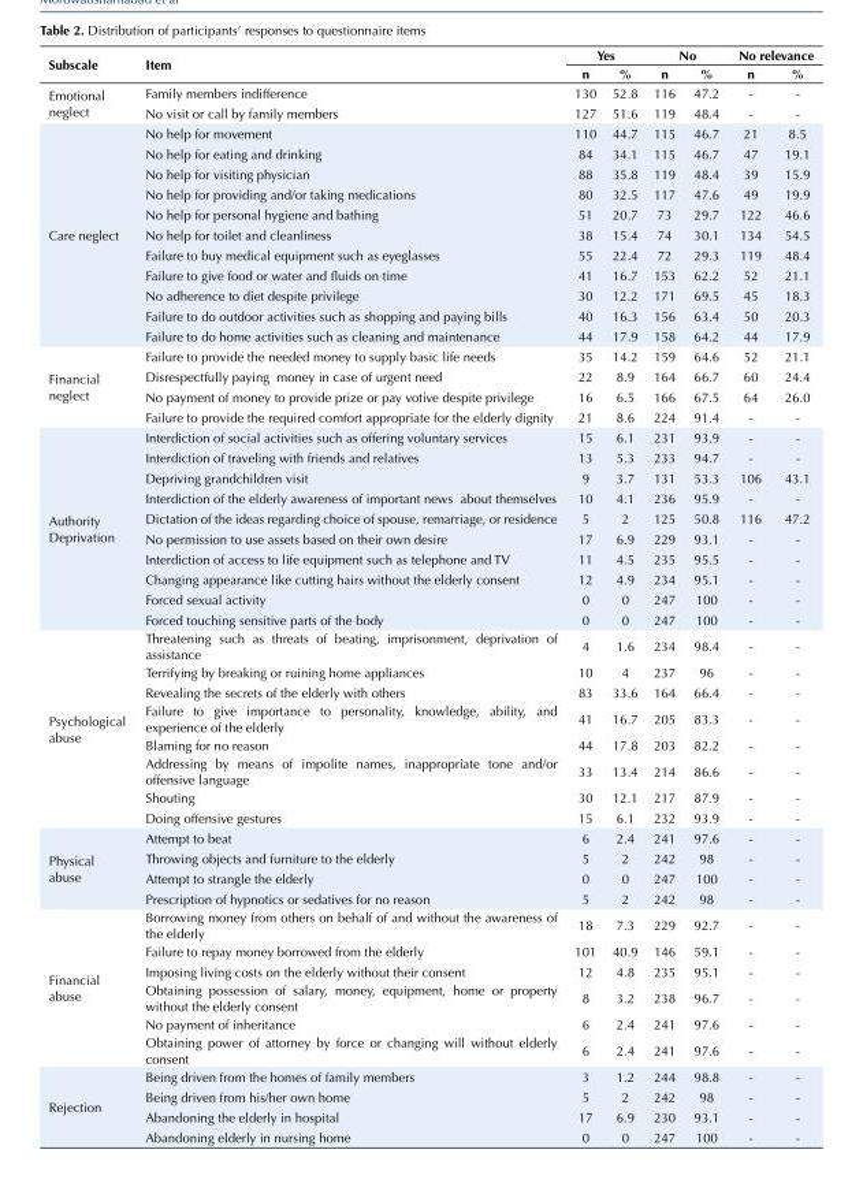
<table><tbody><tr><td rowspan="2">Subscale</td><td rowspan="2">Item</td><td colspan="2">Yes</td><td colspan="2">No</td><td colspan="2">No relevance</td></tr><tr><td>n</td><td>%</td><td>n</td><td>%</td><td>n</td><td>%</td></tr><tr><td rowspan="2">Emotional neglect</td><td>Family members indifference</td><td>130</td><td>52.8</td><td>116</td><td>47.2</td><td>-</td><td>-</td></tr><tr><td>No visit or call by family members</td><td>127</td><td>51.6</td><td>119</td><td>48.4</td><td>-</td><td>-</td></tr><tr><td rowspan="11">Care neglect</td><td>No help for movement</td><td>110</td><td>44.7</td><td>115</td><td>46.7</td><td>21</td><td>8.5</td></tr><tr><td>No help for eating and drinking</td><td>84</td><td>34.1</td><td>115</td><td>46.7</td><td>47</td><td>19.1</td></tr><tr><td>No help for visiting physician</td><td>88</td><td>35.8</td><td>119</td><td>48.4</td><td>39</td><td>15.9</td></tr><tr><td>No help for providing and/or taking medications</td><td>80</td><td>32.5</td><td>117</td><td>47.6</td><td>49</td><td>19.9</td></tr><tr><td>No help for personal hygiene and bathing</td><td>51</td><td>20.7</td><td>73</td><td>29.7</td><td>122</td><td>46.6</td></tr><tr><td>No help for toilet and cleanliness</td><td>38</td><td>15.4</td><td>74</td><td>30.1</td><td>134</td><td>54.5</td></tr><tr><td>Failure to buy medical equipment such as eyeglasses</td><td>55</td><td>22.4</td><td>72</td><td>29.3</td><td>119</td><td>48.4</td></tr><tr><td>Failure to give food or water and fluids on time</td><td>41</td><td>16.7</td><td>153</td><td>62.2</td><td>52</td><td>21.1</td></tr><tr><td>No adherence to diet despite privilege</td><td>30</td><td>12.2</td><td>171</td><td>69.5</td><td>45</td><td>18.3</td></tr><tr><td>Failure to do outdoor activities such as shopping and paying bills</td><td>40</td><td>16.3</td><td>156</td><td>63.4</td><td>50</td><td>20.3</td></tr><tr><td>Failure to do home activities such as cleaning and maintenance</td><td>44</td><td>17.9</td><td>158</td><td>64.2</td><td>44</td><td>17.9</td></tr><tr><td rowspan="4">Financial neglect</td><td>Failure to provide the needed money to supply basic life needs</td><td>35</td><td>14.2</td><td>159</td><td>64.6</td><td>52</td><td>21.1</td></tr><tr><td>Disrespectfully paying money in case of urgent need</td><td>22</td><td>8.9</td><td>164</td><td>66.7</td><td>60</td><td>24.4</td></tr><tr><td>No payment of money to provide prize or pay votive despite privilege</td><td>16</td><td>6.5</td><td>166</td><td>67.5</td><td>64</td><td>26.0</td></tr><tr><td>Failure to provide the required comfort appropriate for the elderly dignity</td><td>21</td><td>8.6</td><td>224</td><td>91.4</td><td>-</td><td>-</td></tr><tr><td rowspan="10">Authority Deprivation</td><td>Interdiction of social activities such as offering voluntary services</td><td>15</td><td>6.1</td><td>231</td><td>93.9</td><td>-</td><td>-</td></tr><tr><td>Interdiction of traveling with friends and relatives</td><td>13</td><td>5.3</td><td>233</td><td>94.7</td><td>-</td><td>-</td></tr><tr><td>Depriving grandchildren visit</td><td>9</td><td>3.7</td><td>131</td><td>53.3</td><td>106</td><td>43.1</td></tr><tr><td>Interdiction of the elderly awareness of important news about themselves</td><td>10</td><td>4.1</td><td>236</td><td>95.9</td><td>-</td><td>-</td></tr><tr><td>Dictation of the ideas regarding choice of spouse, remarriage, or residence</td><td>5</td><td>2</td><td>125</td><td>50.8</td><td>116</td><td>47.2</td></tr><tr><td>No permission to use assets based on their own desire</td><td>17</td><td>6.9</td><td>229</td><td>93.1</td><td>-</td><td>-</td></tr><tr><td>Interdiction of access to life equipment such as telephone and TV</td><td>11</td><td>4.5</td><td>235</td><td>95.5</td><td>-</td><td>-</td></tr><tr><td>Changing appearance like cutting hairs without the elderly consent</td><td>12</td><td>4.9</td><td>234</td><td>95.1</td><td>-</td><td>-</td></tr><tr><td>Forced sexual activity</td><td>0</td><td>0</td><td>247</td><td>100</td><td>-</td><td>-</td></tr><tr><td>Forced touching sensitive parts of the body</td><td>0</td><td>0</td><td>247</td><td>100</td><td>-</td><td>-</td></tr><tr><td rowspan="8">Psychological abuse</td><td>Threatening such as threats of beating, imprisonment, deprivation of assistance</td><td>4</td><td>1.6</td><td>234</td><td>98.4</td><td>-</td><td>-</td></tr><tr><td>Terrifying by breaking or ruining home appliances</td><td>10</td><td>4</td><td>237</td><td>96</td><td>-</td><td>-</td></tr><tr><td>Revealing the secrets of the elderly with others</td><td>83</td><td>33.6</td><td>164</td><td>66.4</td><td>-</td><td>-</td></tr><tr><td>Failure to give importance to personality, knowledge, ability, and experience of the elderly</td><td>41</td><td>16.7</td><td>205</td><td>83.3</td><td>-</td><td>-</td></tr><tr><td>Blaming for no reason</td><td>44</td><td>17.8</td><td>203</td><td>82.2</td><td>-</td><td>-</td></tr><tr><td>Addressing by means of impolite names, inappropriate tone and/or offensive language</td><td>33</td><td>13.4</td><td>214</td><td>86.6</td><td>-</td><td>-</td></tr><tr><td>Shouting</td><td>30</td><td>12.1</td><td>217</td><td>87.9</td><td>-</td><td>-</td></tr><tr><td>Doing offensive gestures</td><td>15</td><td>6.1</td><td>232</td><td>93.9</td><td>-</td><td>-</td></tr><tr><td rowspan="4">Physical abuse</td><td>Attempt to beat</td><td>6</td><td>2.4</td><td>241</td><td>97.6</td><td>-</td><td>-</td></tr><tr><td>Throwing objects and furniture to the elderly</td><td>5</td><td>2</td><td>242</td><td>98</td><td>-</td><td>-</td></tr><tr><td>Attempt to strangle the elderly</td><td>0</td><td>0</td><td>247</td><td>100</td><td>-</td><td>-</td></tr><tr><td>Prescription of hypnotics or sedatives for no reason</td><td>5</td><td>2</td><td>242</td><td>98</td><td>-</td><td>-</td></tr><tr><td rowspan="6">Financial abuse</td><td>Borrowing money from others on behalf of and without the awareness of the elderly</td><td>18</td><td>7.3</td><td>229</td><td>92.7</td><td>-</td><td>-</td></tr><tr><td>Failure to repay money borrowed from the elderly</td><td>101</td><td>40.9</td><td>146</td><td>59.1</td><td>-</td><td>-</td></tr><tr><td>Imposing living costs on the elderly without their consent</td><td>12</td><td>4.8</td><td>235</td><td>95.1</td><td>-</td><td>-</td></tr><tr><td>Obtaining possession of salary, money, equipment, home or property without the elderly consent</td><td>8</td><td>3.2</td><td>238</td><td>96.7</td><td>-</td><td>-</td></tr><tr><td>No payment of inheritance</td><td>6</td><td>2.4</td><td>241</td><td>97.6</td><td>-</td><td>-</td></tr><tr><td>Obtaining power of attorney by force or changing will without elderly consent</td><td>6</td><td>2.4</td><td>241</td><td>97.6</td><td>-</td><td>-</td></tr><tr><td rowspan="4">Rejection</td><td>Being driven from the homes of family members</td><td>3</td><td>1.2</td><td>244</td><td>98.8</td><td>-</td><td>-</td></tr><tr><td>Being driven from his/her own home</td><td>5</td><td>2</td><td>242</td><td>98</td><td>-</td><td>-</td></tr><tr><td>Abandoning the elderly in hospital</td><td>17</td><td>6.9</td><td>230</td><td>93.1</td><td>-</td><td>-</td></tr><tr><td>Abandoning elderly in nursing home</td><td>0</td><td>0</td><td>247</td><td>100</td><td>-</td><td>-</td></tr></tbody></table>